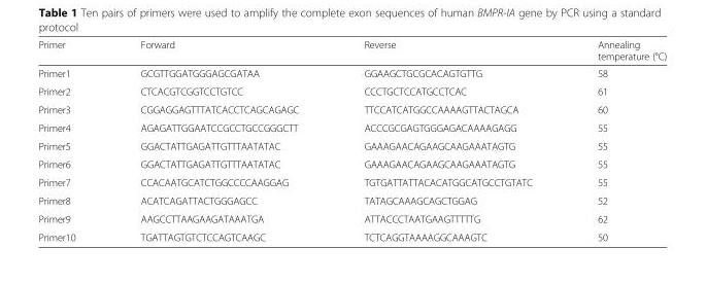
<table><thead><tr><td>Primer</td><td>Forward</td><td>Reverse</td><td>Annealing temperature (°C)</td></tr></thead><tbody><tr><td>Primer1</td><td>GCGTTGGATGGGAGCGATAA</td><td>GGAAGCTGCGCACAGTGTTG</td><td>58</td></tr><tr><td>Primer2</td><td>CTCACGTCGGTCCTGTCC</td><td>CCCTGCTCCATGCCTCAC</td><td>61</td></tr><tr><td>Primer3</td><td>CGGAGGAGTTTATCACCTCAGCAGAGC</td><td>TTCCATCATGGCCAAAAGTTACTAGCA</td><td>60</td></tr><tr><td>Primer4</td><td>AGAGATTGGAATCCGCCTGCCGGGCTT</td><td>ACCCGCGAGTGGGAGACAAAAGAGG</td><td>55</td></tr><tr><td>Primer5</td><td>GGACTATTGAGATTGTTTAATATAC</td><td>GAAAGAACAGAAGCAAGAAATAGTG</td><td>55</td></tr><tr><td>Primer6</td><td>GGACTATTGAGATTGTTTAATATAC</td><td>GAAAGAACAGAAGCAAGAAATAGTG</td><td>55</td></tr><tr><td>Primer7</td><td>CCACAATGCATCTGGCCCCAAGGAG</td><td>TGTGATTATTACACATGGCATGCCTGTATC</td><td>55</td></tr><tr><td>Primer8</td><td>ACATCAGATTACTGGGAGCC</td><td>TATAGCAAAGCAGCTGGAG</td><td>52</td></tr><tr><td>Primer9</td><td>AAGCCTTAAGAAGATAAATGA</td><td>ATTACCCTAATGAAGTTTTTG</td><td>62</td></tr><tr><td>Primer10</td><td>TGATTAGTGTCTCCAGTCAAGC</td><td>TCTCAGGTAAAAGGCAAAGTC</td><td>50</td></tr></tbody></table>